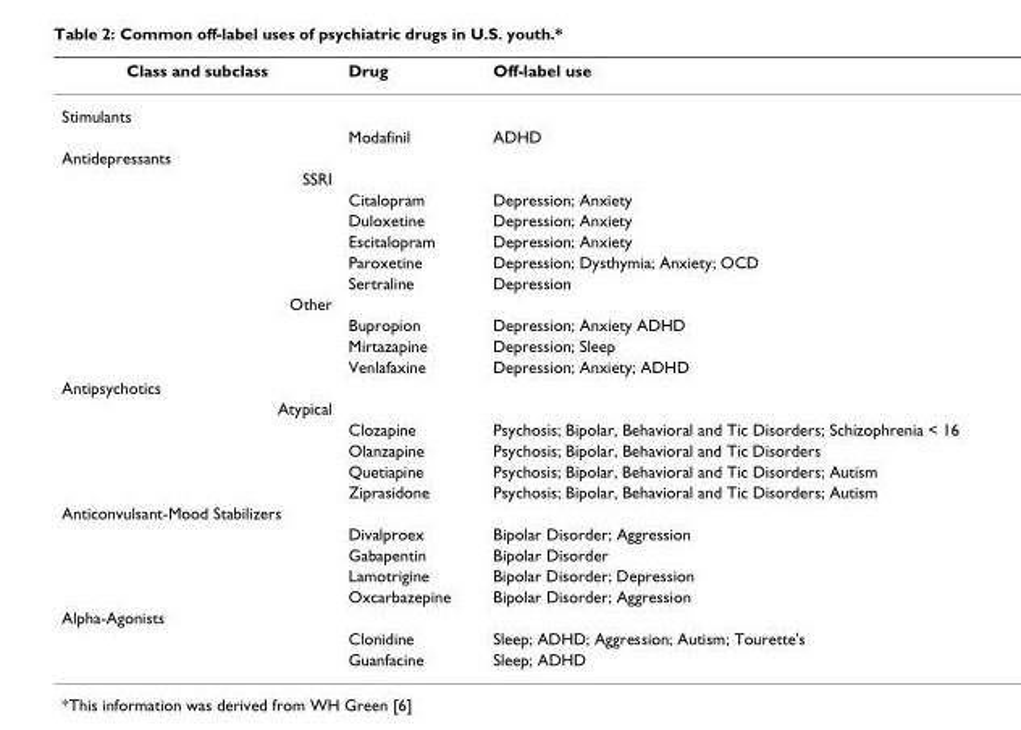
<table><thead><tr><td>Class and subclass</td><td>Drug</td><td>Off-label use</td></tr></thead><tbody><tr><td colspan="3">Stimulants</td></tr><tr><td></td><td>Modafinil</td><td>ADHD</td></tr><tr><td colspan="3">Antidepressants</td></tr><tr><td colspan="3">SSRI</td></tr><tr><td></td><td>Citalopram</td><td>Depression; Anxiety</td></tr><tr><td></td><td>Duloxetine</td><td>Depression; Anxiety</td></tr><tr><td></td><td>Escitalopram</td><td>Depression; Anxiety</td></tr><tr><td></td><td>Paroxetine</td><td>Depression; Dysthymia; Anxiety; OCD</td></tr><tr><td></td><td>Sertraline</td><td>Depression</td></tr><tr><td colspan="3">Other</td></tr><tr><td></td><td>Bupropion</td><td>Depression; Anxiety ADHD</td></tr><tr><td></td><td>Mirtazapine</td><td>Depression; Sleep</td></tr><tr><td></td><td>Venlafaxine</td><td>Depression; Anxiety; ADHD</td></tr><tr><td colspan="3">Antipsychotics</td></tr><tr><td colspan="3">Atypical</td></tr><tr><td></td><td>Clozapine</td><td>Psychosis; Bipolar, Behavioral and Tic Disorders; Schizophrenia &lt; 16</td></tr><tr><td></td><td>Olanzapine</td><td>Psychosis; Bipolar, Behavioral and Tic Disorders</td></tr><tr><td></td><td>Quetiapine</td><td>Psychosis; Bipolar, Behavioral and Tic Disorders; Autism</td></tr><tr><td></td><td>Ziprasidone</td><td>Psychosis; Bipolar, Behavioral and Tic Disorders; Autism</td></tr><tr><td colspan="3">Anticonvulsant-Mood Stabilizers</td></tr><tr><td></td><td>Divalproex</td><td>Bipolar Disorder; Aggression</td></tr><tr><td></td><td>Gabapentin</td><td>Bipolar Disorder</td></tr><tr><td></td><td>Lamotrigine</td><td>Bipolar Disorder; Depression</td></tr><tr><td></td><td>Oxcarbazepine</td><td>Bipolar Disorder; Aggression</td></tr><tr><td colspan="3">Alpha-Agonists</td></tr><tr><td></td><td>Clonidine</td><td>Sleep; ADHD; Aggression; Autism; Tourette&#x27;s</td></tr><tr><td></td><td>Guanfacine</td><td>Sleep; ADHD</td></tr></tbody></table>